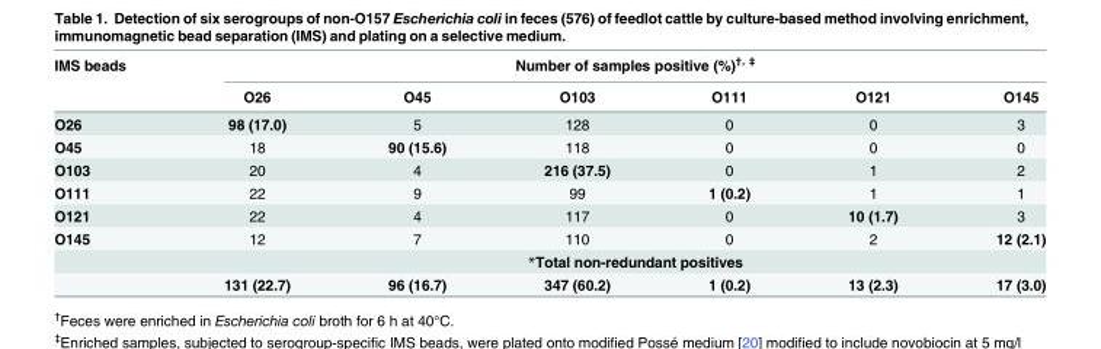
<table><thead><tr><td rowspan="2">IMS beads</td><td colspan="6">Number of samples positive (%)<sup>†, ‡</sup></td></tr><tr><td>O26</td><td>O45</td><td>O103</td><td>O111</td><td>O121</td><td>O145</td></tr></thead><tbody><tr><td>O26</td><td>98 (17.0)</td><td>5</td><td>128</td><td>0</td><td>0</td><td>3</td></tr><tr><td>O45</td><td>18</td><td>90 (15.6)</td><td>118</td><td>0</td><td>0</td><td>0</td></tr><tr><td>O103</td><td>20</td><td>4</td><td>216 (37.5)</td><td>0</td><td>1</td><td>2</td></tr><tr><td>O111</td><td>22</td><td>9</td><td>99</td><td>1 (0.2)</td><td>1</td><td>1</td></tr><tr><td>O121</td><td>22</td><td>4</td><td>117</td><td>0</td><td>10 (1.7)</td><td>3</td></tr><tr><td rowspan="3">O145</td><td>12</td><td>7</td><td>110</td><td>0</td><td>2</td><td>12 (2.1)</td></tr><tr><td colspan="6">*Total non-redundant positives</td></tr><tr><td>131 (22.7)</td><td>96 (16.7)</td><td>347 (60.2)</td><td>1 (0.2)</td><td>13 (2.3)</td><td>17 (3.0)</td></tr></tbody></table>